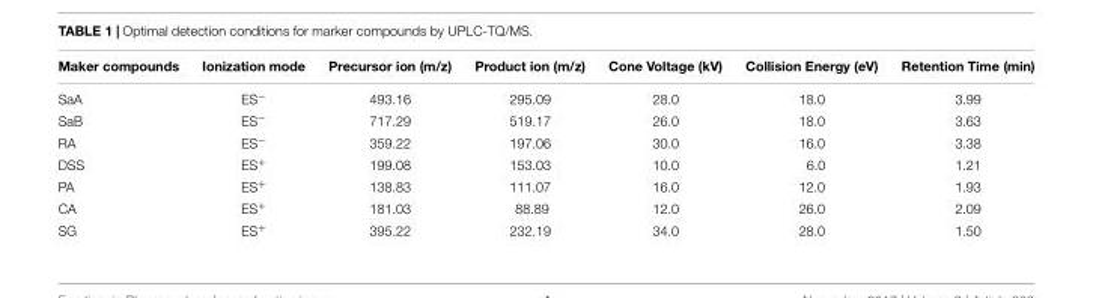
<table><thead><tr><td>Maker compounds</td><td>Ionization mode</td><td>Precursor ion (m/z)</td><td>Product ion (m/z)</td><td>Cone Voltage (kV)</td><td>Collision Energy (eV)</td><td>Retention Time (min)</td></tr></thead><tbody><tr><td>SaA</td><td>ES<sup>−</sup></td><td>493.16</td><td>295.09</td><td>28.0</td><td>18.0</td><td>3.99</td></tr><tr><td>SaB</td><td>ES<sup>−</sup></td><td>717.29</td><td>519.17</td><td>26.0</td><td>18.0</td><td>3.63</td></tr><tr><td>RA</td><td>ES<sup>−</sup></td><td>359.22</td><td>197.06</td><td>30.0</td><td>16.0</td><td>3.38</td></tr><tr><td>DSS</td><td>ES<sup>+</sup></td><td>199.08</td><td>153.03</td><td>10.0</td><td>6.0</td><td>1.21</td></tr><tr><td>PA</td><td>ES<sup>+</sup></td><td>138.83</td><td>111.07</td><td>16.0</td><td>12.0</td><td>1.93</td></tr><tr><td>CA</td><td>ES<sup>+</sup></td><td>181.03</td><td>88.89</td><td>12.0</td><td>26.0</td><td>2.09</td></tr><tr><td>SG</td><td>ES<sup>+</sup></td><td>395.22</td><td>232.19</td><td>34.0</td><td>28.0</td><td>1.50</td></tr></tbody></table>